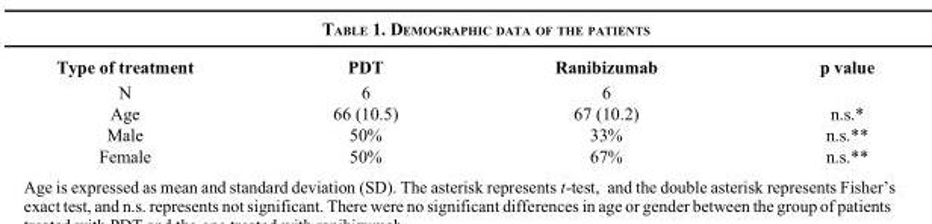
<table><thead><tr><td>Type of treatment</td><td>PDT</td><td>Ranibizumab</td><td>p value</td></tr></thead><tbody><tr><td>N</td><td>6</td><td>6</td><td></td></tr><tr><td>Age</td><td>66 (10.5)</td><td>67 (10.2)</td><td>n.s.*</td></tr><tr><td>Male</td><td>50%</td><td>33%</td><td>n.s.**</td></tr><tr><td>Female</td><td>50%</td><td>67%</td><td>n.s.**</td></tr></tbody></table>